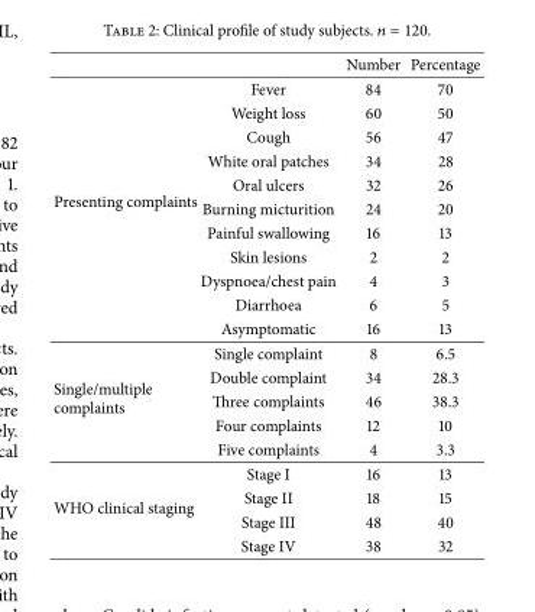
<table><thead><tr><td></td><td></td><td>Number</td><td>Percentage</td></tr></thead><tbody><tr><td rowspan="11">Presenting complaints</td><td>Fever</td><td>84</td><td>70</td></tr><tr><td>Weight loss</td><td>60</td><td>50</td></tr><tr><td>Cough</td><td>56</td><td>47</td></tr><tr><td>White oral patches</td><td>34</td><td>28</td></tr><tr><td>Oral ulcers</td><td>32</td><td>26</td></tr><tr><td>Burning micturition</td><td>24</td><td>20</td></tr><tr><td>Painful swallowing</td><td>16</td><td>13</td></tr><tr><td>Skin lesions</td><td>2</td><td>2</td></tr><tr><td>Dyspnoea/chest pain</td><td>4</td><td>3</td></tr><tr><td>Diarrhoea</td><td>6</td><td>5</td></tr><tr><td>Asymptomatic</td><td>16</td><td>13</td></tr><tr><td rowspan="5">Single/multiple complaints</td><td>Single complaint</td><td>8</td><td>6.5</td></tr><tr><td>Double complaint</td><td>34</td><td>28.3</td></tr><tr><td>Three complaints</td><td>46</td><td>38.3</td></tr><tr><td>Four complaints</td><td>12</td><td>10</td></tr><tr><td>Five complaints</td><td>4</td><td>3.3</td></tr><tr><td rowspan="4">WHO clinical staging</td><td>Stage I</td><td>16</td><td>13</td></tr><tr><td>Stage II</td><td>18</td><td>15</td></tr><tr><td>Stage III</td><td>48</td><td>40</td></tr><tr><td>Stage IV</td><td>38</td><td>32</td></tr></tbody></table>